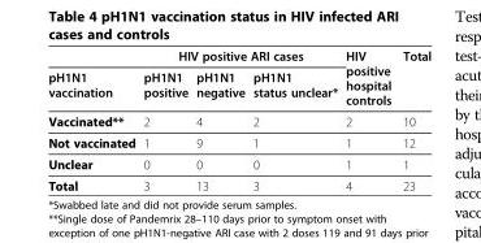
<table><thead><tr><td rowspan="2">pH1N1 vaccination</td><td colspan="3">HIV positive ARI cases</td><td rowspan="2">HIV positive hospital controls</td><td rowspan="2">Total</td></tr><tr><td>pH1N1 positive</td><td>pH1N1 negative</td><td>pH1N1 status unclear*</td></tr></thead><tbody><tr><td>Vaccinated**</td><td>2</td><td>4</td><td>2</td><td>2</td><td>10</td></tr><tr><td>Not vaccinated</td><td>1</td><td>9</td><td>1</td><td>1</td><td>12</td></tr><tr><td>Unclear</td><td>0</td><td>0</td><td>0</td><td>1</td><td>1</td></tr><tr><td>Total</td><td>3</td><td>13</td><td>3</td><td>4</td><td>23</td></tr></tbody></table>